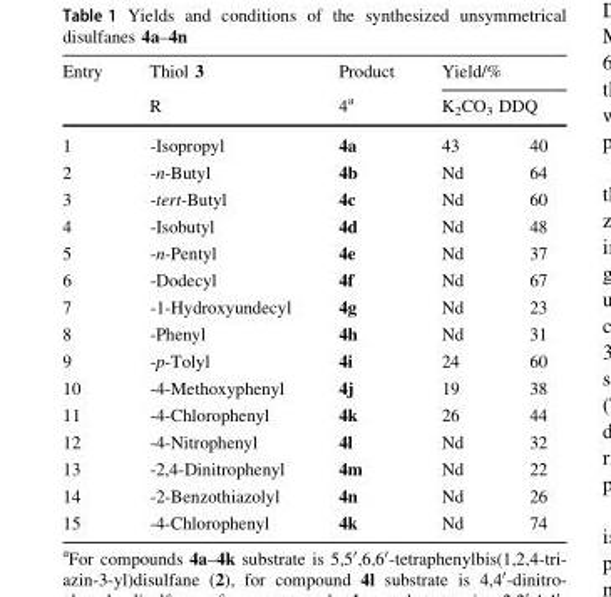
<table><thead><tr><td rowspan="3">Entry 1</td><td rowspan="3">Thiol 3 R -Isopropyl</td><td rowspan="3">Product 4a 4a</td><td rowspan="2" colspan="2">Yield/% K<sub>2</sub>CO<sub>3</sub> DDQ</td></tr><tr></tr><tr><td>43</td><td>40</td></tr></thead><tbody><tr><td>2</td><td>-n-Butyl</td><td>4b</td><td>Nd</td><td>64</td></tr><tr><td>3</td><td>-tert-Butyl</td><td>4c</td><td>Nd</td><td>60</td></tr><tr><td>4</td><td>-Isobutyl</td><td>4d</td><td>Nd</td><td>48</td></tr><tr><td>5</td><td>-n-Pentyl</td><td>4e</td><td>Nd</td><td>37</td></tr><tr><td>6</td><td>-Dodecyl</td><td>4f</td><td>Nd</td><td>67</td></tr><tr><td>7</td><td>-1-Hydroxyundecyl</td><td>4g</td><td>Nd</td><td>23</td></tr><tr><td>8</td><td>-Phenyl</td><td>4h</td><td>Nd</td><td>31</td></tr><tr><td>9</td><td>-p-Tolyl</td><td>4i</td><td>24</td><td>60</td></tr><tr><td>10</td><td>-4-Methoxyphenyl</td><td>4j</td><td>19</td><td>38</td></tr><tr><td>11</td><td>-4-Chlorophenyl</td><td>4k</td><td>26</td><td>44</td></tr><tr><td>12</td><td>-4-Nitrophenyl</td><td>4l</td><td>Nd</td><td>32</td></tr><tr><td>13</td><td>-2,4-Dinitrophenyl</td><td>4m</td><td>Nd</td><td>22</td></tr><tr><td>14</td><td>-2-Benzothiazolyl</td><td>4n</td><td>Nd</td><td>26</td></tr><tr><td>15</td><td>-4-Chlorophenyl</td><td>4k</td><td>Nd</td><td>74</td></tr></tbody></table>